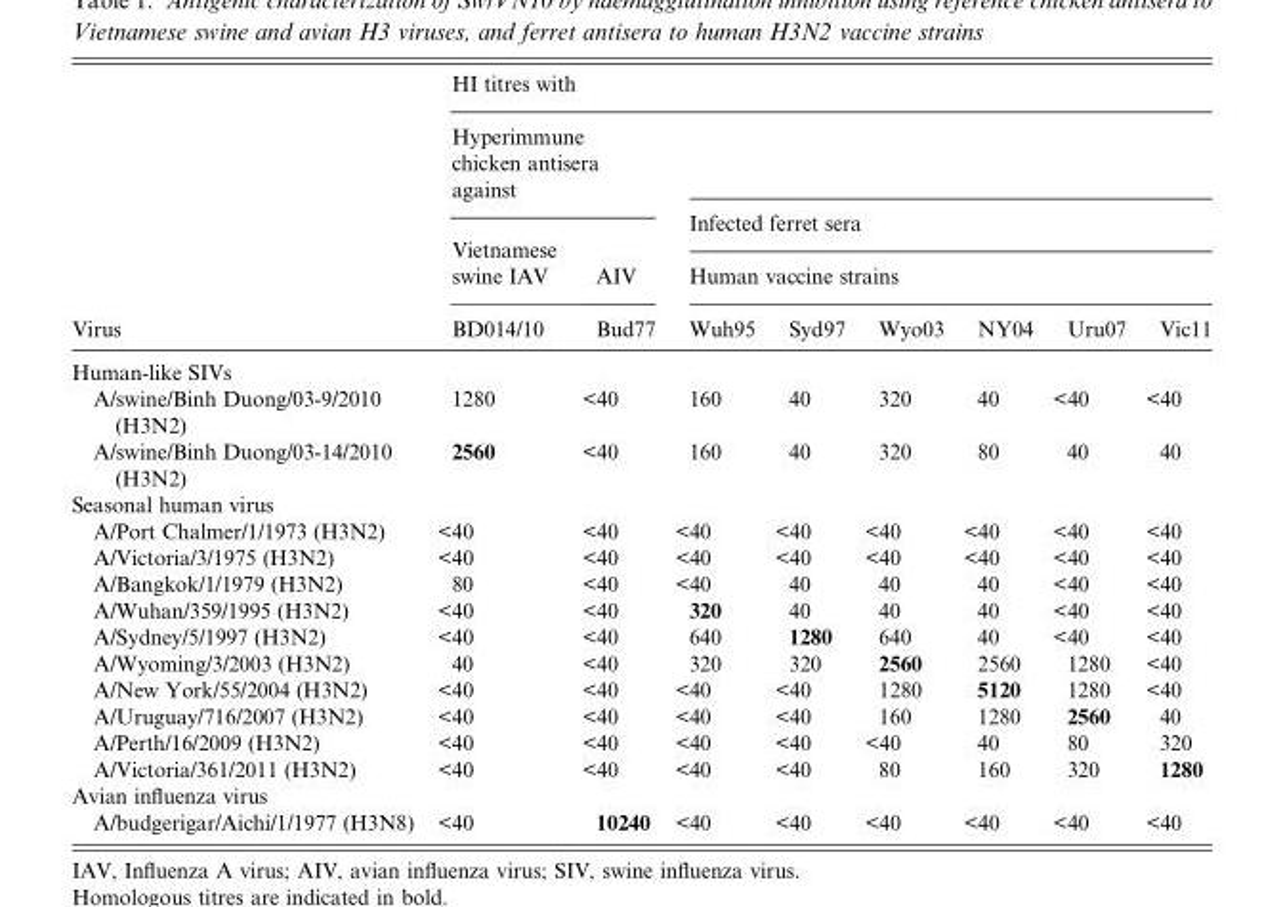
<table><thead><tr><td rowspan="5">Virus</td><td colspan="8">HI titres with</td></tr><tr><td colspan="2">Hyperimmune chicken antisera against</td><td></td><td></td><td></td><td></td><td></td><td></td></tr><tr><td rowspan="3">Vietnamese swine IAV BD014/10</td><td rowspan="3">AIV Bud77</td><td rowspan="2" colspan="6">Infected ferret sera Human vaccine strains</td></tr><tr></tr><tr><td>Wuh95</td><td>Syd97</td><td>Wyo03</td><td>NY04</td><td>Uru07</td><td>Vic11</td></tr></thead><tbody><tr><td colspan="9">Human-like SIVs</td></tr><tr><td>A/swine/Binh Duong/03-9/2010 (H3N2)</td><td>1280</td><td>&lt;40</td><td>160</td><td>40</td><td>320</td><td>40</td><td>&lt;40</td><td>&lt;40</td></tr><tr><td>A/swine/Binh Duong/03-14/2010 (H3N2)</td><td>2560</td><td>&lt;40</td><td>160</td><td>40</td><td>320</td><td>80</td><td>40</td><td>40</td></tr><tr><td colspan="9">Seasonal human virus</td></tr><tr><td>A/Port Chalmer/1/1973 (H3N2)</td><td>&lt;40</td><td>&lt;40</td><td>&lt;40</td><td>&lt;40</td><td>&lt;40</td><td>&lt;40</td><td>&lt;40</td><td>&lt;40</td></tr><tr><td>A/Victoria/3/1975 (H3N2)</td><td>&lt;40</td><td>&lt;40</td><td>&lt;40</td><td>&lt;40</td><td>&lt;40</td><td>&lt;40</td><td>&lt;40</td><td>&lt;40</td></tr><tr><td>A/Bangkok/1/1979 (H3N2)</td><td>80</td><td>&lt;40</td><td>&lt;40</td><td>40</td><td>40</td><td>40</td><td>&lt;40</td><td>&lt;40</td></tr><tr><td>A/Wuhan/359/1995 (H3N2)</td><td>&lt;40</td><td>&lt;40</td><td>320</td><td>40</td><td>40</td><td>40</td><td>&lt;40</td><td>&lt;40</td></tr><tr><td>A/Sydney/5/1997 (H3N2)</td><td>&lt;40</td><td>&lt;40</td><td>640</td><td>1280</td><td>640</td><td>40</td><td>&lt;40</td><td>&lt;40</td></tr><tr><td>A/Wyoming/3/2003 (H3N2)</td><td>40</td><td>&lt;40</td><td>320</td><td>320</td><td>2560</td><td>2560</td><td>1280</td><td>&lt;40</td></tr><tr><td>A/New York/55/2004 (H3N2)</td><td>&lt;40</td><td>&lt;40</td><td>&lt;40</td><td>&lt;40</td><td>1280</td><td>5120</td><td>1280</td><td>&lt;40</td></tr><tr><td>A/Uruguay/716/2007 (H3N2)</td><td>&lt;40</td><td>&lt;40</td><td>&lt;40</td><td>&lt;40</td><td>160</td><td>1280</td><td>2560</td><td>40</td></tr><tr><td>A/Perth/16/2009 (H3N2)</td><td>&lt;40</td><td>&lt;40</td><td>&lt;40</td><td>&lt;40</td><td>&lt;40</td><td>40</td><td>80</td><td>320</td></tr><tr><td>A/Victoria/361/2011 (H3N2)</td><td>&lt;40</td><td>&lt;40</td><td>&lt;40</td><td>&lt;40</td><td>80</td><td>160</td><td>320</td><td>1280</td></tr><tr><td colspan="9">Avian influenza virus</td></tr><tr><td>A/budgerigar/Aichi/1/1977 (H3N8)</td><td>&lt;40</td><td>10240</td><td>&lt;40</td><td>&lt;40</td><td>&lt;40</td><td>&lt;40</td><td>&lt;40</td><td>&lt;40</td></tr></tbody></table>